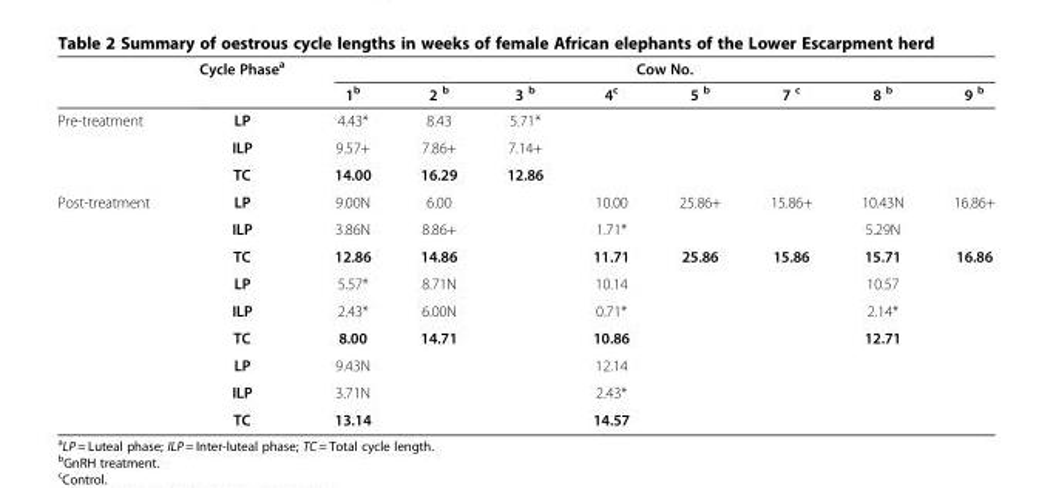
<table><thead><tr><td rowspan="2"></td><td rowspan="2">Cycle Phase<sup>a</sup></td><td colspan="8">Cow No.</td></tr><tr><td>1<sup>b</sup></td><td>2 <sup>b</sup></td><td>3 <sup>b</sup></td><td>4<sup>c</sup></td><td>5 <sup>b</sup></td><td>7 <sup>c</sup></td><td>8 <sup>b</sup></td><td>9 <sup>b</sup></td></tr></thead><tbody><tr><td rowspan="3">Pre-treatment</td><td>LP</td><td>4.43*</td><td>8.43</td><td>5.71*</td><td></td><td></td><td></td><td></td><td></td></tr><tr><td>ILP</td><td>9.57+</td><td>7.86+</td><td>7.14+</td><td></td><td></td><td></td><td></td><td></td></tr><tr><td>TC</td><td>14.00</td><td>16.29</td><td>12.86</td><td></td><td></td><td></td><td></td><td></td></tr><tr><td rowspan="9">Post-treatment</td><td>LP</td><td>9.00N</td><td>6.00</td><td></td><td>10.00</td><td>25.86+</td><td>15.86+</td><td>10.43N</td><td>16.86+</td></tr><tr><td>ILP</td><td>3.86N</td><td>8.86+</td><td></td><td>1.71*</td><td></td><td></td><td>5.29N</td><td></td></tr><tr><td>TC</td><td>12.86</td><td>14.86</td><td></td><td>11.71</td><td>25.86</td><td>15.86</td><td>15.71</td><td>16.86</td></tr><tr><td>LP</td><td>5.57*</td><td>8.71N</td><td></td><td>10.14</td><td></td><td></td><td>10.57</td><td></td></tr><tr><td>ILP</td><td>2.43*</td><td>6.00N</td><td></td><td>0.71*</td><td></td><td></td><td>2.14*</td><td></td></tr><tr><td>TC</td><td>8.00</td><td>14.71</td><td></td><td>10.86</td><td></td><td></td><td>12.71</td><td></td></tr><tr><td>LP</td><td>9.43N</td><td></td><td></td><td>12.14</td><td></td><td></td><td></td><td></td></tr><tr><td>ILP</td><td>3.71N</td><td></td><td></td><td>2.43*</td><td></td><td></td><td></td><td></td></tr><tr><td>TC</td><td>13.14</td><td></td><td></td><td>14.57</td><td></td><td></td><td></td><td></td></tr></tbody></table>